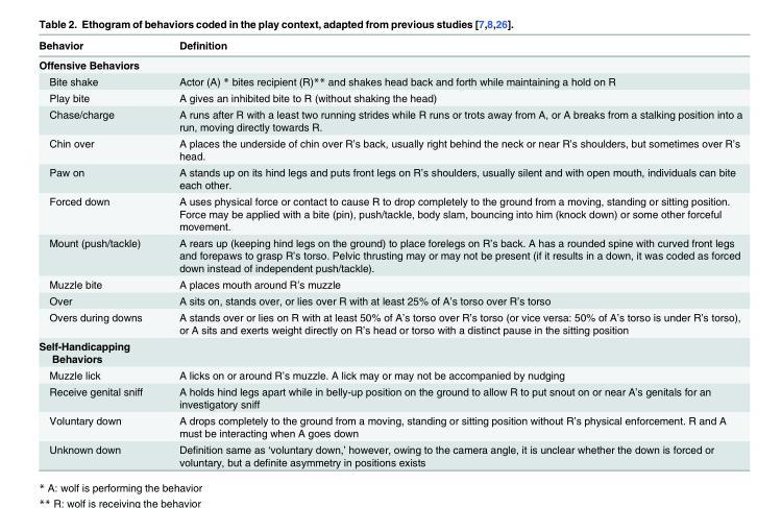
<table><thead><tr><td>Behavior</td><td>Definition</td></tr></thead><tbody><tr><td colspan="2">Offensive Behaviors</td></tr><tr><td>Bite shake</td><td>Actor (A) * bites recipient (R)** and shakes head back and forth while maintaining a hold on R</td></tr><tr><td>Play bite</td><td>A gives an inhibited bite to R (without shaking the head)</td></tr><tr><td>Chase/charge</td><td>A runs after R with a least two running strides while R runs or trots away from A, or A breaks from a stalking position into a run, moving directly towards R.</td></tr><tr><td>Chin over</td><td>A places the underside of chin over R’s back, usually right behind the neck or near R’s shoulders, but sometimes over R’s head.</td></tr><tr><td>Paw on</td><td>A stands up on its hind legs and puts front legs on R’s shoulders, usually silent and with open mouth, individuals can bite each other.</td></tr><tr><td>Forced down</td><td>A uses physical force or contact to cause R to drop completely to the ground from a moving, standing or sitting position. Force may be applied with a bite (pin), push/tackle, body slam, bouncing into him (knock down) or some other forceful movement.</td></tr><tr><td>Mount (push/tackle)</td><td>A rears up (keeping hind legs on the ground) to place forelegs on R’s back. A has a rounded spine with curved front legs and forepaws to grasp R’s torso. Pelvic thrusting may or may not be present (if it results in a down, it was coded as forced down instead of independent push/tackle).</td></tr><tr><td>Muzzle bite</td><td>A places mouth around R’s muzzle</td></tr><tr><td>Over</td><td>A sits on, stands over, or lies over R with at least 25% of A’s torso over R’s torso</td></tr><tr><td>Overs during downs</td><td>A stands over or lies on R with at least 50% of A’s torso over R’s torso (or vice versa: 50% of A’s torso is under R’s torso), or A sits and exerts weight directly on R’s head or torso with a distinct pause in the sitting position</td></tr><tr><td colspan="2">Self-Handicapping Behaviors</td></tr><tr><td>Muzzle lick</td><td>A licks on or around R’s muzzle. A lick may or may not be accompanied by nudging</td></tr><tr><td>Receive genital sniff</td><td>A holds hind legs apart while in belly-up position on the ground to allow R to put snout on or near A’s genitals for an investigatory sniff</td></tr><tr><td>Voluntary down</td><td>A drops completely to the ground from a moving, standing or sitting position without R’s physical enforcement. R and A must be interacting when A goes down</td></tr><tr><td>Unknown down</td><td>Definition same as ‘voluntary down,’ however, owing to the camera angle, it is unclear whether the down is forced or voluntary, but a definite asymmetry in positions exists</td></tr></tbody></table>